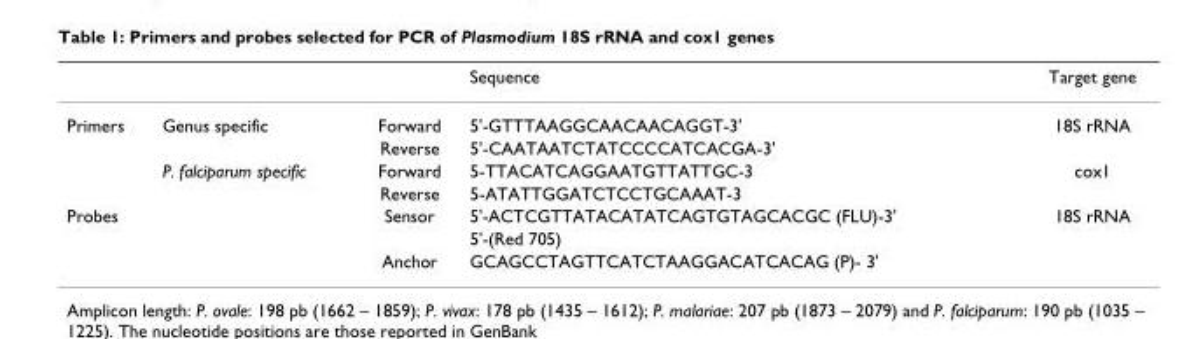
<table><thead><tr><td></td><td></td><td></td><td>Sequence</td><td>Target gene</td></tr></thead><tbody><tr><td rowspan="4">Primers</td><td>Genus specific</td><td>Forward</td><td>5&#x27;-GTTTAAGGCAACAACAGGT-3&#x27;</td><td>18S rRNA</td></tr><tr><td></td><td>Reverse</td><td>5&#x27;-CAATAATCTATCCCCATCACGA-3&#x27;</td><td></td></tr><tr><td>P. falciparum specific</td><td>Forward</td><td>5-TTACATCAGGAATGTTATTGC-3</td><td>cox1</td></tr><tr><td></td><td>Reverse</td><td>5-ATATTGGATCTCCTGCAAAT-3</td><td></td></tr><tr><td rowspan="3">Probes</td><td></td><td>Sensor</td><td>5&#x27;-ACTCGTTATACATATCAGTGTAGCACGC (FLU)-3&#x27;</td><td>18S rRNA</td></tr><tr><td></td><td></td><td>5&#x27;-(Red 705)</td><td></td></tr><tr><td></td><td>Anchor</td><td>GCAGCCTAGTTCATCTAAGGACATCACAG (P)- 3&#x27;</td><td></td></tr></tbody></table>